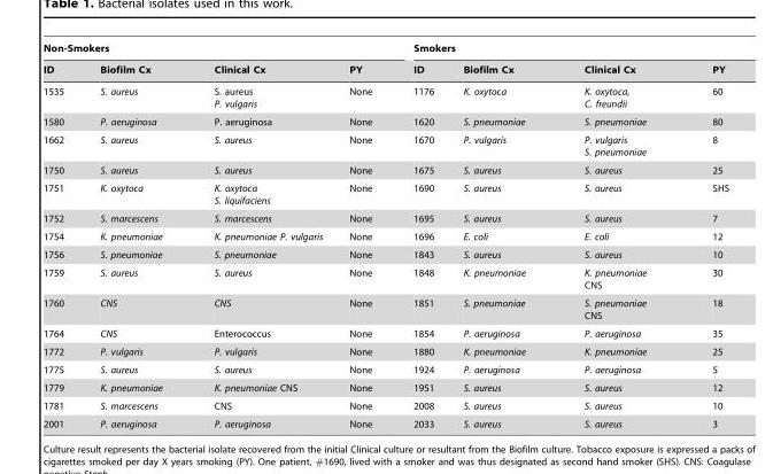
<table><thead><tr><td colspan="4">Non-Smokers</td><td colspan="4">Smokers</td></tr><tr><td>ID</td><td>Biofilm Cx</td><td>Clinical Cx</td><td>PY</td><td>ID</td><td>Biofilm Cx</td><td>Clinical Cx</td><td>PY</td></tr></thead><tbody><tr><td>1535</td><td>S. aureus</td><td>S. aureus P. vulgaris</td><td>None</td><td>1176</td><td>K. oxytoca</td><td>K. oxytoca, C. freundii</td><td>60</td></tr><tr><td>1580</td><td>P. aeruginosa</td><td>P. aeruginosa</td><td>None</td><td>1620</td><td>S. pneumoniae</td><td>S. pneumoniae</td><td>80</td></tr><tr><td>1662</td><td>S. aureus</td><td>S. aureus</td><td>None</td><td>1670</td><td>P. vulgaris</td><td>P. vulgaris S. pneumoniae</td><td>8</td></tr><tr><td>1750</td><td>S. aureus</td><td>S. aureus</td><td>None</td><td>1675</td><td>S. aureus</td><td>S. aureus</td><td>25</td></tr><tr><td>1751</td><td>K. oxytoca</td><td>K. oxytoca S. liquifaciens</td><td>None</td><td>1690</td><td>S. aureus</td><td>S. aureus</td><td>SHS</td></tr><tr><td>1752</td><td>S. marcescens</td><td>S. marcescens</td><td>None</td><td>1695</td><td>S. aureus</td><td>S. aureus</td><td>7</td></tr><tr><td>1754</td><td>K. pneumoniae</td><td>K. pneumoniae P. vulgaris</td><td>None</td><td>1696</td><td>E. coli</td><td>E. coli</td><td>12</td></tr><tr><td>1756</td><td>S. pneumoniae</td><td>S. pneumoniae</td><td>None</td><td>1843</td><td>S. aureus</td><td>S. aureus</td><td>10</td></tr><tr><td>1759</td><td>S. aureus</td><td>S. aureus</td><td>None</td><td>1848</td><td>K. pneumoniae</td><td>K. pneumoniae CNS</td><td>30</td></tr><tr><td>1760</td><td>CNS</td><td>CNS</td><td>None</td><td>1851</td><td>S. pneumoniae</td><td>S. pneumoniae CNS</td><td>18</td></tr><tr><td>1764</td><td>CNS</td><td>Enterococcus</td><td>None</td><td>1854</td><td>P. aeruginosa</td><td>P. aeruginosa</td><td>35</td></tr><tr><td>1772</td><td>P. vulgaris</td><td>P. vulgaris</td><td>None</td><td>1880</td><td>K. pneumoniae</td><td>K. pneumoniae</td><td>25</td></tr><tr><td>1775</td><td>S. aureus</td><td>S. aureus</td><td>None</td><td>1924</td><td>P. aeruginosa</td><td>P. aeruginosa</td><td>5</td></tr><tr><td>1779</td><td>K. pneumoniae</td><td>K. pneumoniae CNS</td><td>None</td><td>1951</td><td>S. aureus</td><td>S. aureus</td><td>12</td></tr><tr><td>1781</td><td>S. marcescens</td><td>CNS</td><td>None</td><td>2008</td><td>S. aureus</td><td>S. aureus</td><td>10</td></tr><tr><td>2001</td><td>P. aeruginosa</td><td>P. aeruginosa</td><td>None</td><td>2033</td><td>S. aureus</td><td>S. aureus</td><td>3</td></tr></tbody></table>